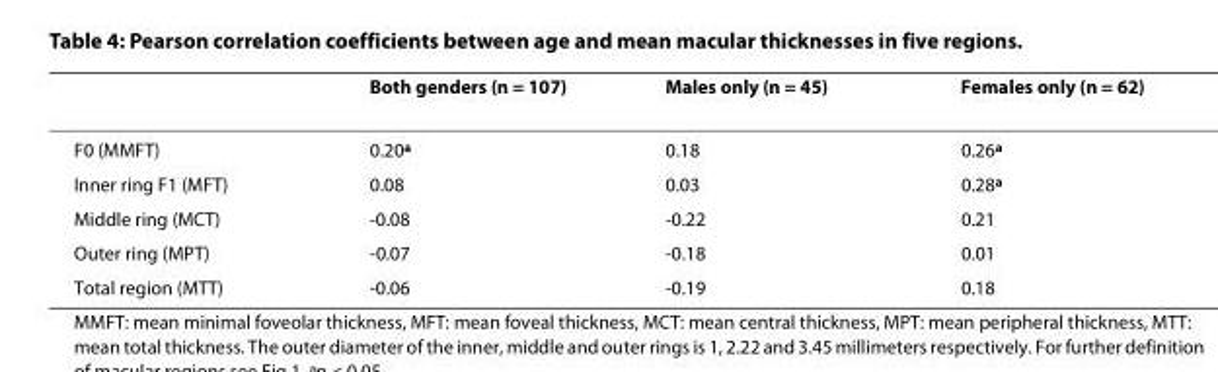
<table><thead><tr><td></td><td>Both genders (n = 107)</td><td>Males only (n = 45)</td><td>Females only (n = 62)</td></tr></thead><tbody><tr><td>F0 (MMFT)</td><td>0.20<sup>a</sup></td><td>0.18</td><td>0.26<sup>a</sup></td></tr><tr><td>Inner ring F1 (MFT)</td><td>0.08</td><td>0.03</td><td>0.28<sup>a</sup></td></tr><tr><td>Middle ring (MCT)</td><td>-0.08</td><td>-0.22</td><td>0.21</td></tr><tr><td>Outer ring (MPT)</td><td>-0.07</td><td>-0.18</td><td>0.01</td></tr><tr><td>Total region (MTT)</td><td>-0.06</td><td>-0.19</td><td>0.18</td></tr></tbody></table>